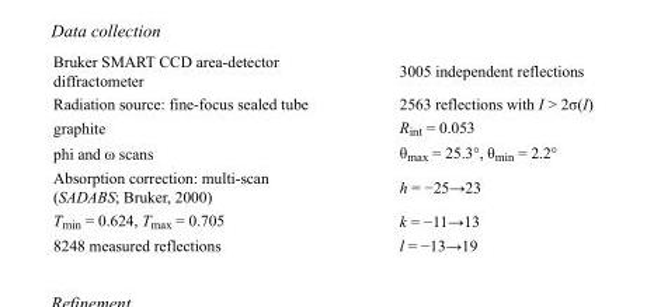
<table><tbody><tr><td>Bruker SMART CCD area-detector diffractometer</td><td>3005 independent reflections</td></tr><tr><td>Radiation source: fine-focus sealed tube</td><td>2563 reflections with I &gt; 2σ(I)</td></tr><tr><td>graphite</td><td>R<sub>int</sub> = 0.053</td></tr><tr><td>phi and ω scans</td><td>θ<sub>max</sub> = 25.3°, θ<sub>min</sub> = 2.2°</td></tr><tr><td>Absorption correction: multi-scan (SADABS; Bruker, 2000)</td><td>h = −25→23</td></tr><tr><td>T<sub>min</sub> = 0.624, T<sub>max</sub> = 0.705</td><td>k = −11→13</td></tr><tr><td>8248 measured reflections</td><td>l = −13→19</td></tr></tbody></table>